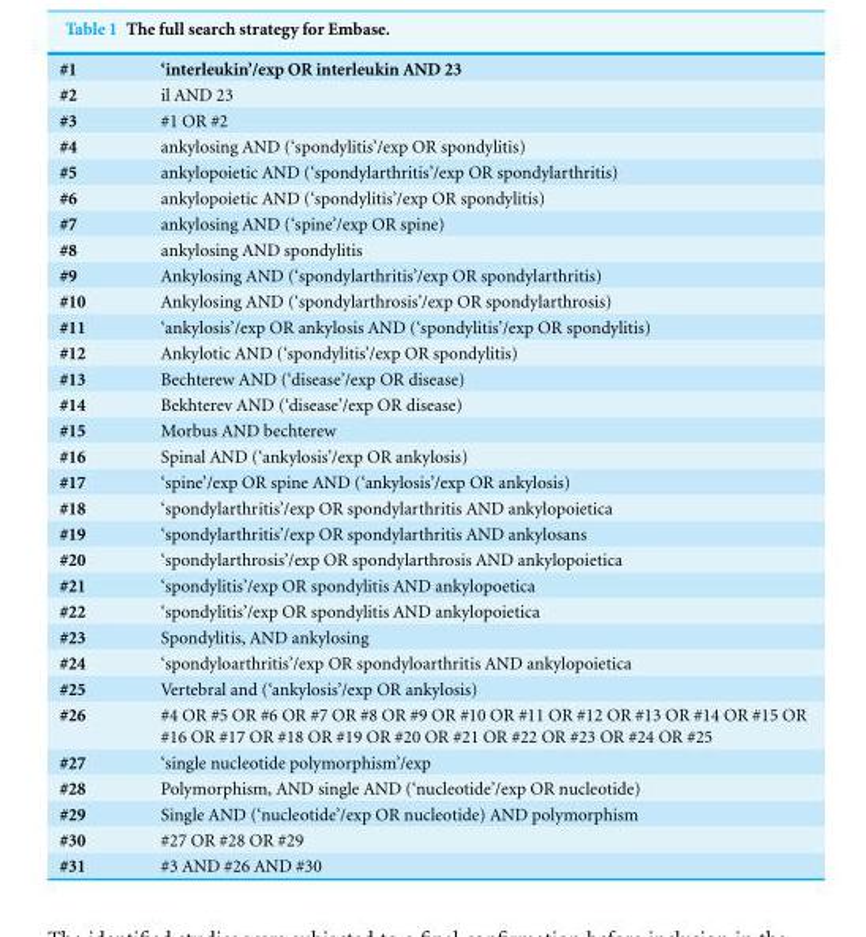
<table><tbody><tr><td>#1</td><td>‘interleukin’/exp OR interleukin AND 23</td></tr><tr><td>#2</td><td>il AND 23</td></tr><tr><td>#3</td><td>#1 OR #2</td></tr><tr><td>#4</td><td>ankylosing AND (‘spondylitis’/exp OR spondylitis)</td></tr><tr><td>#5</td><td>ankylopoietic AND (‘spondylarthritis’/exp OR spondylarthritis)</td></tr><tr><td>#6</td><td>ankylopoietic AND (‘spondylitis’/exp OR spondylitis)</td></tr><tr><td>#7</td><td>ankylosing AND (‘spine’/exp OR spine)</td></tr><tr><td>#8</td><td>ankylosing AND spondylitis</td></tr><tr><td>#9</td><td>Ankylosing AND (‘spondylarthritis’/exp OR spondylarthritis)</td></tr><tr><td>#10</td><td>Ankylosing AND (‘spondylarthrosis’/exp OR spondylarthrosis)</td></tr><tr><td>#11</td><td>‘ankylosis’/exp OR ankylosis AND (‘spondylitis’/exp OR spondylitis)</td></tr><tr><td>#12</td><td>Ankylotic AND (‘spondylitis’/exp OR spondylitis)</td></tr><tr><td>#13</td><td>Bechterew AND (‘disease’/exp OR disease)</td></tr><tr><td>#14</td><td>Bekhterev AND (‘disease’/exp OR disease)</td></tr><tr><td>#15</td><td>Morbus AND bechterew</td></tr><tr><td>#16</td><td>Spinal AND (‘ankylosis’/exp OR ankylosis)</td></tr><tr><td>#17</td><td>‘spine’/exp OR spine AND (‘ankylosis’/exp OR ankylosis)</td></tr><tr><td>#18</td><td>‘spondylarthritis’/exp OR spondylarthritis AND ankylopoietica</td></tr><tr><td>#19</td><td>‘spondylarthritis’/exp OR spondylarthritis AND ankylosans</td></tr><tr><td>#20</td><td>‘spondylarthrosis’/exp OR spondylarthrosis AND ankylopoietica</td></tr><tr><td>#21</td><td>‘spondylitis’/exp OR spondylitis AND ankylopoetica</td></tr><tr><td>#22</td><td>‘spondylitis’/exp OR spondylitis AND ankylopoietica</td></tr><tr><td>#23</td><td>Spondylitis, AND ankylosing</td></tr><tr><td>#24</td><td>‘spondyloarthritis’/exp OR spondyloarthritis AND ankylopoietica</td></tr><tr><td>#25</td><td>Vertebral and (‘ankylosis’/exp OR ankylosis)</td></tr><tr><td>#26</td><td>#4 OR #5 OR #6 OR #7 OR #8 OR #9 OR #10 OR #11 OR #12 OR #13 OR #14 OR #15 OR #16 OR #17 OR #18 OR #19 OR #20 OR #21 OR #22 OR #23 OR #24 OR #25</td></tr><tr><td>#27</td><td>‘single nucleotide polymorphism’/exp</td></tr><tr><td>#28</td><td>Polymorphism, AND single AND (‘nucleotide’/exp OR nucleotide)</td></tr><tr><td>#29</td><td>Single AND (‘nucleotide’/exp OR nucleotide) AND polymorphism</td></tr><tr><td>#30</td><td>#27 OR #28 OR #29</td></tr><tr><td>#31</td><td>#3 AND #26 AND #30</td></tr></tbody></table>